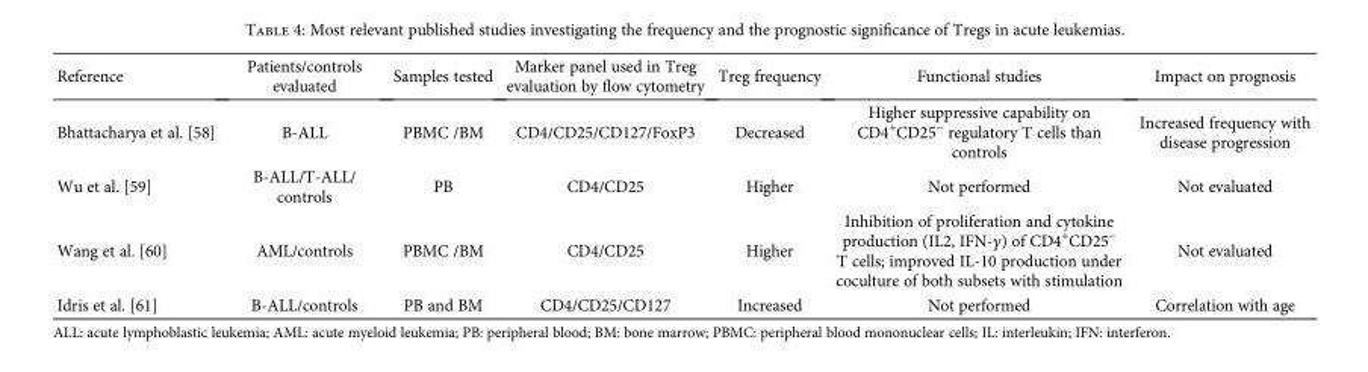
<table><thead><tr><td>Reference</td><td>Patients/controls evaluated</td><td>Samples tested</td><td>Marker panel used in Treg evaluation by flow cytometry</td><td>Treg frequency</td><td>Functional studies</td><td>Impact on prognosis</td></tr></thead><tbody><tr><td>Bhattacharya et al. [58]</td><td>B-ALL</td><td>PBMC /BM</td><td>CD4/CD25/CD127/FoxP3</td><td>Decreased</td><td>Higher suppressive capability on CD4<sup>+</sup>CD25<sup>−</sup> regulatory T cells than controls</td><td>Increased frequency with disease progression</td></tr><tr><td>Wu et al. [59]</td><td>B-ALL/T-ALL/ controls</td><td>PB</td><td>CD4/CD25</td><td>Higher</td><td>Not performed</td><td>Not evaluated</td></tr><tr><td>Wang et al. [60]</td><td>AML/controls</td><td>PBMC /BM</td><td>CD4/CD25</td><td>Higher</td><td>Inhibition of proliferation and cytokine production (IL2, IFN-γ) of CD4<sup>+</sup>CD25<sup>−</sup> T cells; improved IL-10 production under coculture of both subsets with stimulation</td><td>Not evaluated</td></tr><tr><td>Idris et al. [61]</td><td>B-ALL/controls</td><td>PB and BM</td><td>CD4/CD25/CD127</td><td>Increased</td><td>Not performed</td><td>Correlation with age</td></tr></tbody></table>